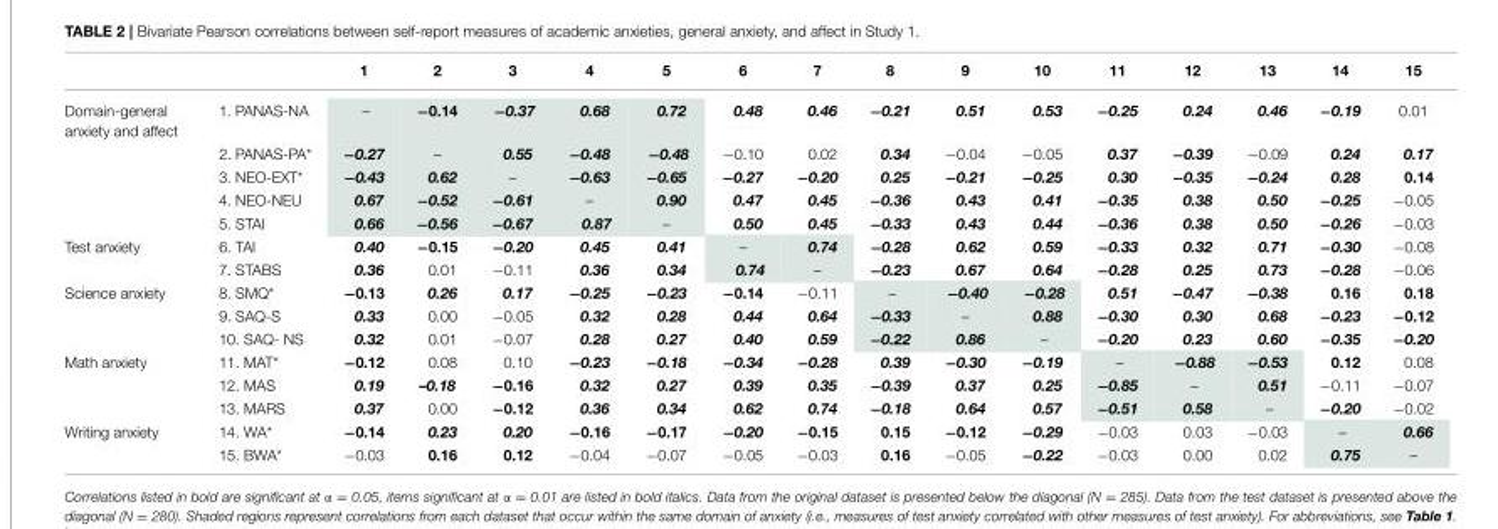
<table><thead><tr><td></td><td></td><td>1</td><td>2</td><td>3</td><td>4</td><td>5</td><td>6</td><td>7</td><td>8</td><td>9</td><td>10</td><td>11</td><td>12</td><td>13</td><td>14</td><td>15</td></tr></thead><tbody><tr><td rowspan="5">Domain-general anxiety and affect</td><td>1. PANAS-NA</td><td>–</td><td>−0.14</td><td>−0.37</td><td>0.68</td><td>0.72</td><td>0.48</td><td>0.46</td><td>−0.21</td><td>0.51</td><td>0.53</td><td>−0.25</td><td>0.24</td><td>0.46</td><td>−0.19</td><td>0.01</td></tr><tr><td>2. PANAS-PA*</td><td>−0.27</td><td>–</td><td>0.55</td><td>−0.48</td><td>−0.48</td><td>−0.10</td><td>0.02</td><td>0.34</td><td>−0.04</td><td>−0.05</td><td>0.37</td><td>−0.39</td><td>−0.09</td><td>0.24</td><td>0.17</td></tr><tr><td>3. NEO-EXT*</td><td>−0.43</td><td>0.62</td><td>–</td><td>−0.63</td><td>−0.65</td><td>−0.27</td><td>−0.20</td><td>0.25</td><td>−0.21</td><td>−0.25</td><td>0.30</td><td>−0.35</td><td>−0.24</td><td>0.28</td><td>0.14</td></tr><tr><td>4. NEO-NEU</td><td>0.67</td><td>−0.52</td><td>−0.61</td><td>–</td><td>0.90</td><td>0.47</td><td>0.45</td><td>−0.36</td><td>0.43</td><td>0.41</td><td>−0.35</td><td>0.38</td><td>0.50</td><td>−0.25</td><td>−0.05</td></tr><tr><td>5. STAI</td><td>0.66</td><td>−0.56</td><td>−0.67</td><td>0.87</td><td>–</td><td>0.50</td><td>0.45</td><td>−0.33</td><td>0.43</td><td>0.44</td><td>−0.36</td><td>0.38</td><td>0.50</td><td>−0.26</td><td>−0.03</td></tr><tr><td rowspan="2">Test anxiety</td><td>6. TAI</td><td>0.40</td><td>−0.15</td><td>−0.20</td><td>0.45</td><td>0.41</td><td>–</td><td>0.74</td><td>−0.28</td><td>0.62</td><td>0.59</td><td>−0.33</td><td>0.32</td><td>0.71</td><td>−0.30</td><td>−0.08</td></tr><tr><td>7. STABS</td><td>0.36</td><td>0.01</td><td>−0.11</td><td>0.36</td><td>0.34</td><td>0.74</td><td>–</td><td>−0.23</td><td>0.67</td><td>0.64</td><td>−0.28</td><td>0.25</td><td>0.73</td><td>−0.28</td><td>−0.06</td></tr><tr><td rowspan="3">Science anxiety</td><td>8. SMQ*</td><td>−0.13</td><td>0.26</td><td>0.17</td><td>−0.25</td><td>−0.23</td><td>−0.14</td><td>−0.11</td><td>–</td><td>−0.40</td><td>−0.28</td><td>0.51</td><td>−0.47</td><td>−0.38</td><td>0.16</td><td>0.18</td></tr><tr><td>9. SAQ-S</td><td>0.33</td><td>0.00</td><td>−0.05</td><td>0.32</td><td>0.28</td><td>0.44</td><td>0.64</td><td>−0.33</td><td>–</td><td>0.88</td><td>−0.30</td><td>0.30</td><td>0.68</td><td>−0.23</td><td>−0.12</td></tr><tr><td>10. SAQ- NS</td><td>0.32</td><td>0.01</td><td>−0.07</td><td>0.28</td><td>0.27</td><td>0.40</td><td>0.59</td><td>−0.22</td><td>0.86</td><td>–</td><td>−0.20</td><td>0.23</td><td>0.60</td><td>−0.35</td><td>−0.20</td></tr><tr><td rowspan="3">Math anxiety</td><td>11. MAT*</td><td>−0.12</td><td>0.08</td><td>0.10</td><td>−0.23</td><td>−0.18</td><td>−0.34</td><td>−0.28</td><td>0.39</td><td>−0.30</td><td>−0.19</td><td>–</td><td>−0.88</td><td>−0.53</td><td>0.12</td><td>0.08</td></tr><tr><td>12. MAS</td><td>0.19</td><td>–0.18</td><td>−0.16</td><td>0.32</td><td>0.27</td><td>0.39</td><td>0.35</td><td>−0.39</td><td>0.37</td><td>0.25</td><td>−0.85</td><td>–</td><td>0.51</td><td>−0.11</td><td>−0.07</td></tr><tr><td>13. MARS</td><td>0.37</td><td>0.00</td><td>−0.12</td><td>0.36</td><td>0.34</td><td>0.62</td><td>0.74</td><td>−0.18</td><td>0.64</td><td>0.57</td><td>−0.51</td><td>0.58</td><td>–</td><td>−0.20</td><td>−0.02</td></tr><tr><td rowspan="2">Writing anxiety</td><td>14. WA*</td><td>−0.14</td><td>0.23</td><td>0.20</td><td>−0.16</td><td>−0.17</td><td>−0.20</td><td>−0.15</td><td>0.15</td><td>−0.12</td><td>−0.29</td><td>−0.03</td><td>0.03</td><td>−0.03</td><td>–</td><td>0.66</td></tr><tr><td>15. BWA*</td><td>−0.03</td><td>0.16</td><td>0.12</td><td>−0.04</td><td>−0.07</td><td>−0.05</td><td>−0.03</td><td>0.16</td><td>−0.05</td><td>−0.22</td><td>−0.03</td><td>0.00</td><td>0.02</td><td>0.75</td><td>–</td></tr></tbody></table>